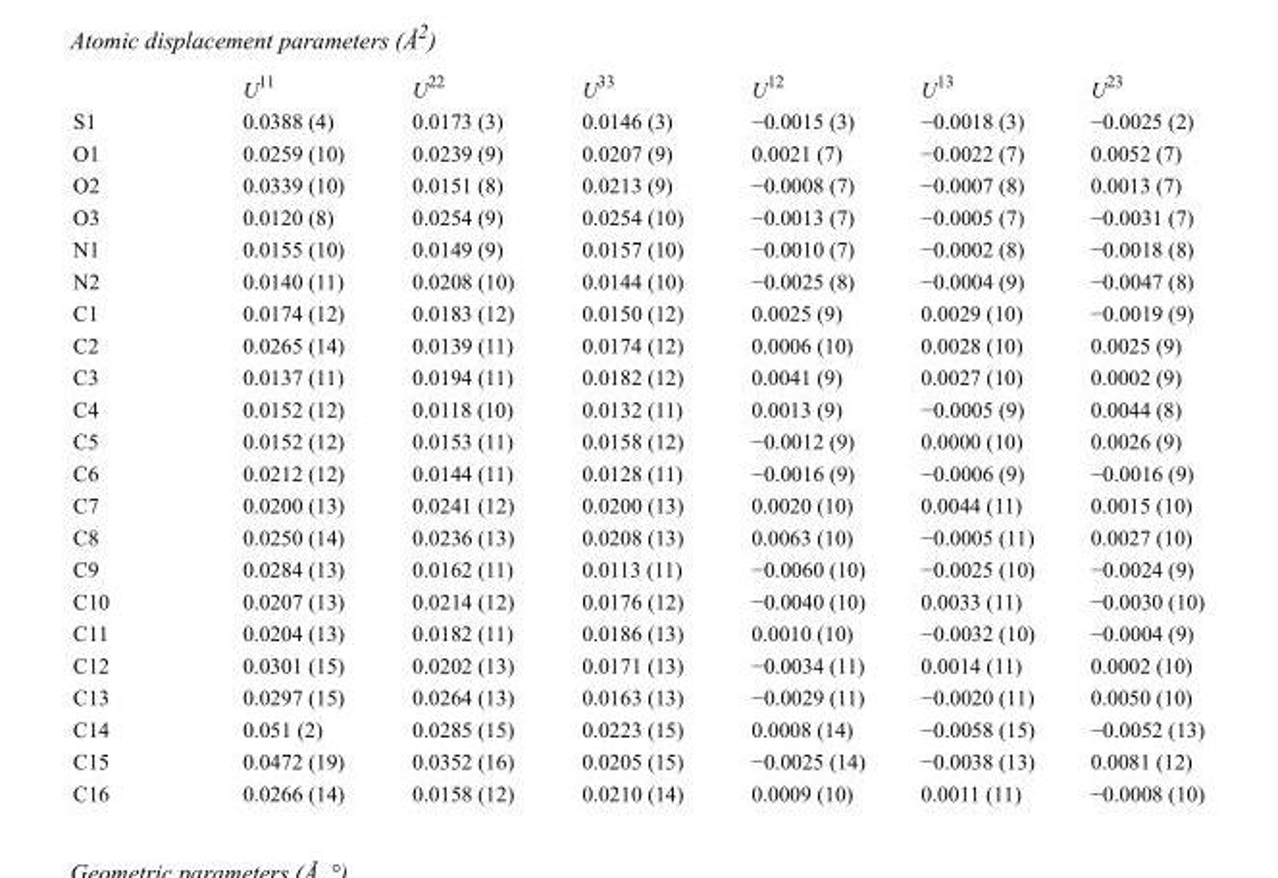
<table><thead><tr><td></td><td>U<sup>11</sup></td><td>U<sup>22</sup></td><td>U<sup>33</sup></td><td>U<sup>12</sup></td><td>U<sup>13</sup></td><td>U<sup>23</sup></td></tr></thead><tbody><tr><td>S1</td><td>0.0388 (4)</td><td>0.0173 (3)</td><td>0.0146 (3)</td><td>−0.0015 (3)</td><td>−0.0018 (3)</td><td>−0.0025 (2)</td></tr><tr><td>O1</td><td>0.0259 (10)</td><td>0.0239 (9)</td><td>0.0207 (9)</td><td>0.0021 (7)</td><td>−0.0022 (7)</td><td>0.0052 (7)</td></tr><tr><td>O2</td><td>0.0339 (10)</td><td>0.0151 (8)</td><td>0.0213 (9)</td><td>−0.0008 (7)</td><td>−0.0007 (8)</td><td>0.0013 (7)</td></tr><tr><td>O3</td><td>0.0120 (8)</td><td>0.0254 (9)</td><td>0.0254 (10)</td><td>−0.0013 (7)</td><td>−0.0005 (7)</td><td>−0.0031 (7)</td></tr><tr><td>N1</td><td>0.0155 (10)</td><td>0.0149 (9)</td><td>0.0157 (10)</td><td>−0.0010 (7)</td><td>−0.0002 (8)</td><td>−0.0018 (8)</td></tr><tr><td>N2</td><td>0.0140 (11)</td><td>0.0208 (10)</td><td>0.0144 (10)</td><td>−0.0025 (8)</td><td>−0.0004 (9)</td><td>−0.0047 (8)</td></tr><tr><td>C1</td><td>0.0174 (12)</td><td>0.0183 (12)</td><td>0.0150 (12)</td><td>0.0025 (9)</td><td>0.0029 (10)</td><td>−0.0019 (9)</td></tr><tr><td>C2</td><td>0.0265 (14)</td><td>0.0139 (11)</td><td>0.0174 (12)</td><td>0.0006 (10)</td><td>0.0028 (10)</td><td>0.0025 (9)</td></tr><tr><td>C3</td><td>0.0137 (11)</td><td>0.0194 (11)</td><td>0.0182 (12)</td><td>0.0041 (9)</td><td>0.0027 (10)</td><td>0.0002 (9)</td></tr><tr><td>C4</td><td>0.0152 (12)</td><td>0.0118 (10)</td><td>0.0132 (11)</td><td>0.0013 (9)</td><td>−0.0005 (9)</td><td>0.0044 (8)</td></tr><tr><td>C5</td><td>0.0152 (12)</td><td>0.0153 (11)</td><td>0.0158 (12)</td><td>−0.0012 (9)</td><td>0.0000 (10)</td><td>0.0026 (9)</td></tr><tr><td>C6</td><td>0.0212 (12)</td><td>0.0144 (11)</td><td>0.0128 (11)</td><td>−0.0016 (9)</td><td>−0.0006 (9)</td><td>−0.0016 (9)</td></tr><tr><td>C7</td><td>0.0200 (13)</td><td>0.0241 (12)</td><td>0.0200 (13)</td><td>0.0020 (10)</td><td>0.0044 (11)</td><td>0.0015 (10)</td></tr><tr><td>C8</td><td>0.0250 (14)</td><td>0.0236 (13)</td><td>0.0208 (13)</td><td>0.0063 (10)</td><td>−0.0005 (11)</td><td>0.0027 (10)</td></tr><tr><td>C9</td><td>0.0284 (13)</td><td>0.0162 (11)</td><td>0.0113 (11)</td><td>−0.0060 (10)</td><td>−0.0025 (10)</td><td>−0.0024 (9)</td></tr><tr><td>C10</td><td>0.0207 (13)</td><td>0.0214 (12)</td><td>0.0176 (12)</td><td>−0.0040 (10)</td><td>0.0033 (11)</td><td>−0.0030 (10)</td></tr><tr><td>C11</td><td>0.0204 (13)</td><td>0.0182 (11)</td><td>0.0186 (13)</td><td>0.0010 (10)</td><td>−0.0032 (10)</td><td>−0.0004 (9)</td></tr><tr><td>C12</td><td>0.0301 (15)</td><td>0.0202 (13)</td><td>0.0171 (13)</td><td>−0.0034 (11)</td><td>0.0014 (11)</td><td>0.0002 (10)</td></tr><tr><td>C13</td><td>0.0297 (15)</td><td>0.0264 (13)</td><td>0.0163 (13)</td><td>−0.0029 (11)</td><td>−0.0020 (11)</td><td>0.0050 (10)</td></tr><tr><td>C14</td><td>0.051 (2)</td><td>0.0285 (15)</td><td>0.0223 (15)</td><td>0.0008 (14)</td><td>−0.0058 (15)</td><td>−0.0052 (13)</td></tr><tr><td>C15</td><td>0.0472 (19)</td><td>0.0352 (16)</td><td>0.0205 (15)</td><td>−0.0025 (14)</td><td>−0.0038 (13)</td><td>0.0081 (12)</td></tr><tr><td>C16</td><td>0.0266 (14)</td><td>0.0158 (12)</td><td>0.0210 (14)</td><td>0.0009 (10)</td><td>0.0011 (11)</td><td>−0.0008 (10)</td></tr></tbody></table>